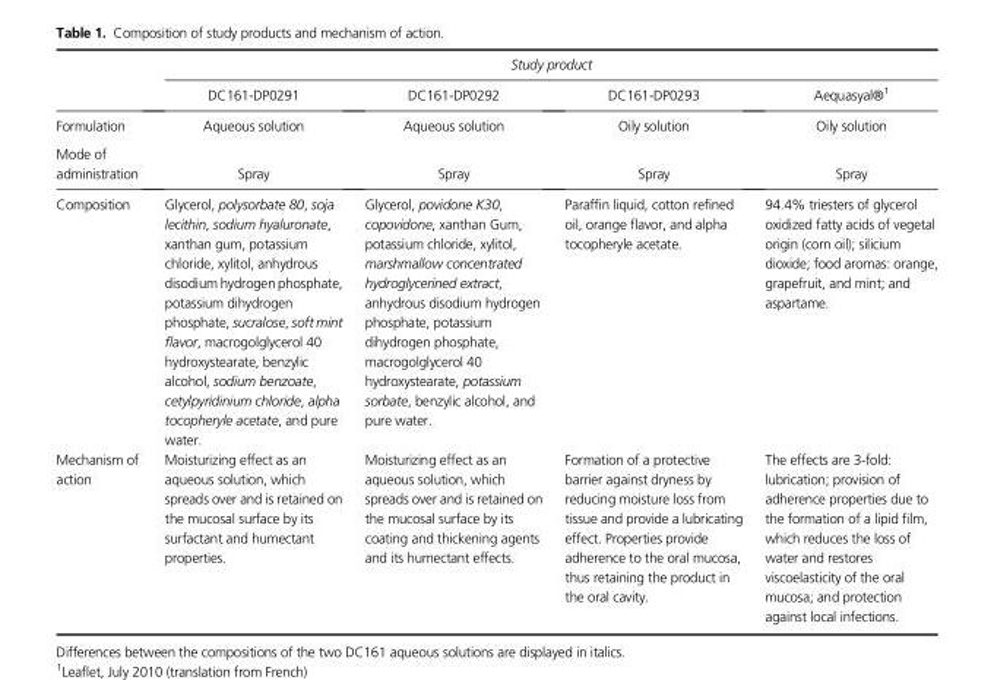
<table><thead><tr><td rowspan="4">Formulation Mode of administration</td><td colspan="4">Study product</td></tr><tr><td rowspan="3">DC161-DP0291 Aqueous solution Spray</td><td rowspan="3">DC161-DP0292 Aqueous solution Spray</td><td rowspan="3">DC161-DP0293 Oily solution Spray</td><td rowspan="3">Aequasyal®1 Oily solution Spray</td></tr><tr></tr><tr></tr></thead><tbody><tr><td>Composition</td><td>Glycerol, polysorbate 80, soja lecithin, sodium hyaluronate, xanthan gum, potassium chloride, xylitol, anhydrous disodium hydrogen phosphate, potassium dihydrogen phosphate, sucralose, soft mint flavor, macrogolglycerol 40 hydroxystearate, benzylic alcohol, sodium benzoate, cetylpyridinium chloride, alpha tocopheryle acetate, and pure water.</td><td>Glycerol, povidone K30, copovidone, xanthan Gum, potassium chloride, xylitol, marshmallow concentrated hydroglycerined extract, anhydrous disodium hydrogen phosphate, potassium dihydrogen phosphate, macrogolglycerol 40 hydroxystearate, potassium sorbate, benzylic alcohol, and pure water.</td><td>Paraffin liquid, cotton refined oil, orange flavor, and alpha tocopheryle acetate.</td><td>94.4% triesters of glycerol oxidized fatty acids of vegetal origin (corn oil); silicium dioxide; food aromas: orange, grapefruit, and mint; and aspartame.</td></tr><tr><td>Mechanism of action</td><td>Moisturizing effect as an aqueous solution, which spreads over and is retained on the mucosal surface by its surfactant and humectant properties.</td><td>Moisturizing effect as an aqueous solution, which spreads over and is retained on the mucosal surface by its coating and thickening agents and its humectant effects.</td><td>Formation of a protective barrier against dryness by reducing moisture loss from tissue and provide a lubricating effect. Properties provide adherence to the oral mucosa, thus retaining the product in the oral cavity.</td><td>The effects are 3-fold: lubrication; provision of adherence properties due to the formation of a lipid film, which reduces the loss of water and restores viscoelasticity of the oral mucosa; and protection against local infections.</td></tr></tbody></table>